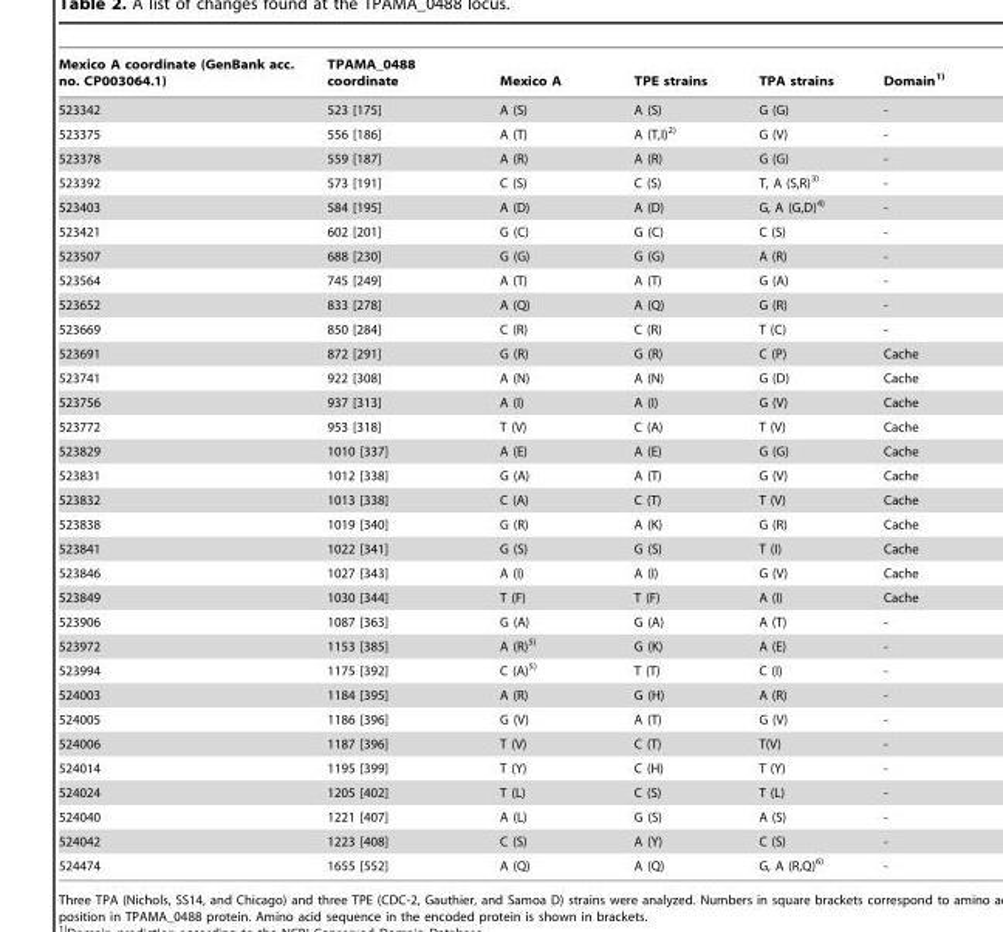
<table><thead><tr><td>Mexico A coordinate (GenBank acc. no. CP003064.1)</td><td>TPAMA_0488 coordinate</td><td>Mexico A</td><td>TPE strains</td><td>TPA strains</td><td>Domain1)</td></tr></thead><tbody><tr><td>523342</td><td>523 [175]</td><td>A (S)</td><td>A (S)</td><td>G (G)</td><td>-</td></tr><tr><td>523375</td><td>556 [186]</td><td>A (T)</td><td>A (T,I)2)</td><td>G (V)</td><td>-</td></tr><tr><td>523378</td><td>559 [187]</td><td>A (R)</td><td>A (R)</td><td>G (G)</td><td>-</td></tr><tr><td>523392</td><td>573 [191]</td><td>C (S)</td><td>C (S)</td><td>T, A (S,R)3)</td><td>-</td></tr><tr><td>523403</td><td>584 [195]</td><td>A (D)</td><td>A (D)</td><td>G, A (G,D)4)</td><td>-</td></tr><tr><td>523421</td><td>602 [201]</td><td>G (C)</td><td>G (C)</td><td>C (S)</td><td>-</td></tr><tr><td>523507</td><td>688 [230]</td><td>G (G)</td><td>G (G)</td><td>A (R)</td><td>-</td></tr><tr><td>523564</td><td>745 [249]</td><td>A (T)</td><td>A (T)</td><td>G (A)</td><td>-</td></tr><tr><td>523652</td><td>833 [278]</td><td>A (Q)</td><td>A (Q)</td><td>G (R)</td><td>-</td></tr><tr><td>523669</td><td>850 [284]</td><td>C (R)</td><td>C (R)</td><td>T (C)</td><td>-</td></tr><tr><td>523691</td><td>872 [291]</td><td>G (R)</td><td>G (R)</td><td>C (P)</td><td>Cache</td></tr><tr><td>523741</td><td>922 [308]</td><td>A (N)</td><td>A (N)</td><td>G (D)</td><td>Cache</td></tr><tr><td>523756</td><td>937 [313]</td><td>A (I)</td><td>A (I)</td><td>G (V)</td><td>Cache</td></tr><tr><td>523772</td><td>953 [318]</td><td>T (V)</td><td>C (A)</td><td>T (V)</td><td>Cache</td></tr><tr><td>523829</td><td>1010 [337]</td><td>A (E)</td><td>A (E)</td><td>G (G)</td><td>Cache</td></tr><tr><td>523831</td><td>1012 [338]</td><td>G (A)</td><td>A (T)</td><td>G (V)</td><td>Cache</td></tr><tr><td>523832</td><td>1013 [338]</td><td>C (A)</td><td>C (T)</td><td>T (V)</td><td>Cache</td></tr><tr><td>523838</td><td>1019 [340]</td><td>G (R)</td><td>A (K)</td><td>G (R)</td><td>Cache</td></tr><tr><td>523841</td><td>1022 [341]</td><td>G (S)</td><td>G (S)</td><td>T (I)</td><td>Cache</td></tr><tr><td>523846</td><td>1027 [343]</td><td>A (I)</td><td>A (I)</td><td>G (V)</td><td>Cache</td></tr><tr><td>523849</td><td>1030 [344]</td><td>T (F)</td><td>T (F)</td><td>A (I)</td><td>Cache</td></tr><tr><td>523906</td><td>1087 [363]</td><td>G (A)</td><td>G (A)</td><td>A (T)</td><td>-</td></tr><tr><td>523972</td><td>1153 [385]</td><td>A (R)5)</td><td>G (K)</td><td>A (E)</td><td>-</td></tr><tr><td>523994</td><td>1175 [392]</td><td>C (A)5)</td><td>T (T)</td><td>C (I)</td><td>-</td></tr><tr><td>524003</td><td>1184 [395]</td><td>A (R)</td><td>G (H)</td><td>A (R)</td><td>-</td></tr><tr><td>524005</td><td>1186 [396]</td><td>G (V)</td><td>A (T)</td><td>G (V)</td><td>-</td></tr><tr><td>524006</td><td>1187 [396]</td><td>T (V)</td><td>C (T)</td><td>T(V)</td><td>-</td></tr><tr><td>524014</td><td>1195 [399]</td><td>T (Y)</td><td>C (H)</td><td>T (Y)</td><td>-</td></tr><tr><td>524024</td><td>1205 [402]</td><td>T (L)</td><td>C (S)</td><td>T (L)</td><td>-</td></tr><tr><td>524040</td><td>1221 [407]</td><td>A (L)</td><td>G (S)</td><td>A (S)</td><td>-</td></tr><tr><td>524042</td><td>1223 [408]</td><td>C (S)</td><td>A (Y)</td><td>C (S)</td><td>-</td></tr><tr><td>524474</td><td>1655 [552]</td><td>A (Q)</td><td>A (Q)</td><td>G, A (R,Q)6)</td><td>-</td></tr></tbody></table>